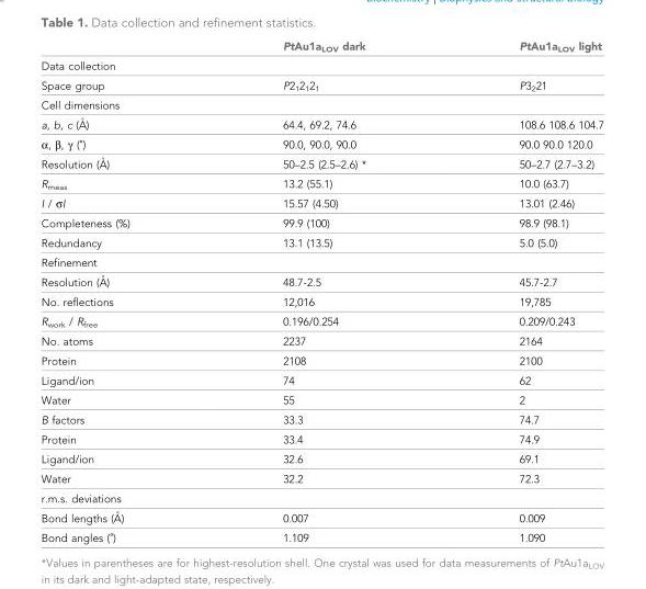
<table><thead><tr><td></td><td>PtAu1a<sub>LOV</sub> dark</td><td>PtAu1a<sub>LOV</sub> light</td></tr></thead><tbody><tr><td colspan="3">Data collection</td></tr><tr><td>Space group</td><td>P2<sub>1</sub>2<sub>1</sub>2<sub>1</sub></td><td>P3<sub>2</sub>21</td></tr><tr><td colspan="3">Cell dimensions</td></tr><tr><td>a, b, c (A˚ )</td><td>64.4, 69.2, 74.6</td><td>108.6 108.6 104.7</td></tr><tr><td>α, β, γ (˚)</td><td>90.0, 90.0, 90.0</td><td>90.0 90.0 120.0</td></tr><tr><td>Resolution (A˚ )</td><td>50–2.5 (2.5–2.6) *</td><td>50–2.7 (2.7–3.2)</td></tr><tr><td>R<sub>meas</sub></td><td>13.2 (55.1)</td><td>10.0 (63.7)</td></tr><tr><td>I / σI</td><td>15.57 (4.50)</td><td>13.01 (2.46)</td></tr><tr><td>Completeness (%)</td><td>99.9 (100)</td><td>98.9 (98.1)</td></tr><tr><td>Redundancy</td><td>13.1 (13.5)</td><td>5.0 (5.0)</td></tr><tr><td colspan="3">Refinement</td></tr><tr><td>Resolution (A˚ )</td><td>48.7-2.5</td><td>45.7-2.7</td></tr><tr><td>No. reflections</td><td>12,016</td><td>19,785</td></tr><tr><td>R<sub>work</sub> / R<sub>free</sub></td><td>0.196/0.254</td><td>0.209/0.243</td></tr><tr><td>No. atoms</td><td>2237</td><td>2164</td></tr><tr><td>Protein</td><td>2108</td><td>2100</td></tr><tr><td>Ligand/ion</td><td>74</td><td>62</td></tr><tr><td>Water</td><td>55</td><td>2</td></tr><tr><td>B factors</td><td>33.3</td><td>74.7</td></tr><tr><td>Protein</td><td>33.4</td><td>74.9</td></tr><tr><td>Ligand/ion</td><td>32.6</td><td>69.1</td></tr><tr><td>Water</td><td>32.2</td><td>72.3</td></tr><tr><td colspan="3">r.m.s. deviations</td></tr><tr><td>Bond lengths (A˚ )</td><td>0.007</td><td>0.009</td></tr><tr><td>Bond angles (˚)</td><td>1.109</td><td>1.090</td></tr></tbody></table>